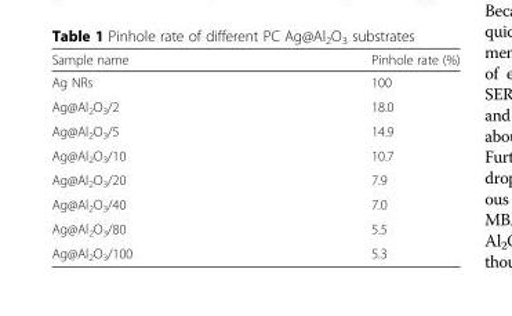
<table><thead><tr><td>Sample name</td><td>Pinhole rate (%)</td></tr></thead><tbody><tr><td>Ag NRs</td><td>100</td></tr><tr><td>Ag@Al<sub>2</sub>O<sub>3</sub>/2</td><td>18.0</td></tr><tr><td>Ag@Al<sub>2</sub>O<sub>3</sub>/5</td><td>14.9</td></tr><tr><td>Ag@Al<sub>2</sub>O<sub>3</sub>/10</td><td>10.7</td></tr><tr><td>Ag@Al<sub>2</sub>O<sub>3</sub>/20</td><td>7.9</td></tr><tr><td>Ag@Al<sub>2</sub>O<sub>3</sub>/40</td><td>7.0</td></tr><tr><td>Ag@Al<sub>2</sub>O<sub>3</sub>/80</td><td>5.5</td></tr><tr><td>Ag@Al<sub>2</sub>O<sub>3</sub>/100</td><td>5.3</td></tr></tbody></table>